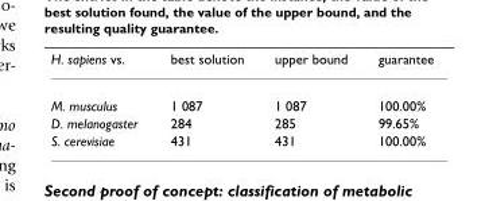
<table><thead><tr><td>H. sapiens vs.</td><td>best solution</td><td>upper bound</td><td>guarantee</td></tr></thead><tbody><tr><td>M. musculus</td><td>1 087</td><td>1 087</td><td>100.00%</td></tr><tr><td>D. melanogaster</td><td>284</td><td>285</td><td>99.65%</td></tr><tr><td>S. cerevisiae</td><td>431</td><td>431</td><td>100.00%</td></tr></tbody></table>